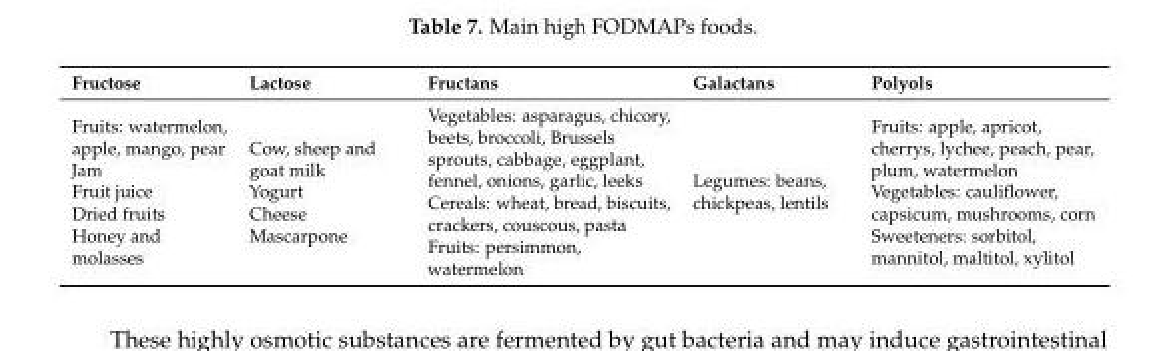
<table><thead><tr><td>Fructose</td><td>Lactose</td><td>Fructans</td><td>Galactans</td><td>Polyols</td></tr></thead><tbody><tr><td>Fruits: watermelon, apple, mango, pear Jam Fruit juice Dried fruits Honey and molasses</td><td>Cow, sheep and goat milk Yogurt Cheese Mascarpone</td><td>Vegetables: asparagus, chicory, beets, broccoli, Brussels sprouts, cabbage, eggplant, fennel, onions, garlic, leeks Cereals: wheat, bread, biscuits, crackers, couscous, pasta Fruits: persimmon, watermelon</td><td>Legumes: beans, chickpeas, lentils</td><td>Fruits: apple, apricot, cherrys, lychee, peach, pear, plum, watermelon Vegetables: cauliflower, capsicum, mushrooms, corn Sweeteners: sorbitol, mannitol, maltitol, xylitol</td></tr></tbody></table>